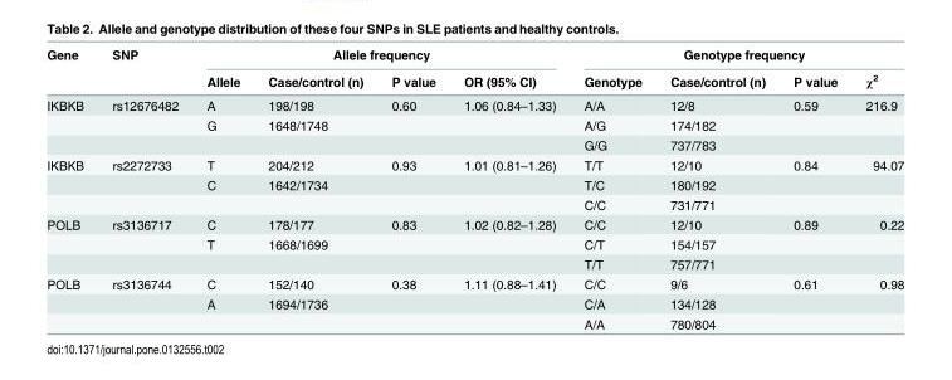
<table><thead><tr><td rowspan="2">Gene</td><td rowspan="2">SNP</td><td colspan="4">Allele frequency</td><td colspan="4">Genotype frequency</td></tr><tr><td>Allele</td><td>Case/control (n)</td><td>P value</td><td>OR (95% CI)</td><td>Genotype</td><td>Case/control (n)</td><td>P value</td><td>χ<sup>2</sup></td></tr></thead><tbody><tr><td rowspan="3">IKBKB</td><td>rs12676482</td><td>A</td><td>198/198</td><td>0.60</td><td>1.06 (0.84–1.33)</td><td>A/A</td><td>12/8</td><td>0.59</td><td>216.9</td></tr><tr><td></td><td>G</td><td>1648/1748</td><td></td><td></td><td>A/G</td><td>174/182</td><td></td><td></td></tr><tr><td></td><td></td><td></td><td></td><td></td><td>G/G</td><td>737/783</td><td></td><td></td></tr><tr><td rowspan="3">IKBKB</td><td>rs2272733</td><td>T</td><td>204/212</td><td>0.93</td><td>1.01 (0.81–1.26)</td><td>T/T</td><td>12/10</td><td>0.84</td><td>94.07</td></tr><tr><td></td><td>C</td><td>1642/1734</td><td></td><td></td><td>T/C</td><td>180/192</td><td></td><td></td></tr><tr><td></td><td></td><td></td><td></td><td></td><td>C/C</td><td>731/771</td><td></td><td></td></tr><tr><td rowspan="3">POLB</td><td>rs3136717</td><td>C</td><td>178/177</td><td>0.83</td><td>1.02 (0.82–1.28)</td><td>C/C</td><td>12/10</td><td>0.89</td><td>0.22</td></tr><tr><td></td><td>T</td><td>1668/1699</td><td></td><td></td><td>C/T</td><td>154/157</td><td></td><td></td></tr><tr><td></td><td></td><td></td><td></td><td></td><td>T/T</td><td>757/771</td><td></td><td></td></tr><tr><td rowspan="3">POLB</td><td>rs3136744</td><td>C</td><td>152/140</td><td>0.38</td><td>1.11 (0.88–1.41)</td><td>C/C</td><td>9/6</td><td>0.61</td><td>0.98</td></tr><tr><td></td><td>A</td><td>1694/1736</td><td></td><td></td><td>C/A</td><td>134/128</td><td></td><td></td></tr><tr><td></td><td></td><td></td><td></td><td></td><td>A/A</td><td>780/804</td><td></td><td></td></tr></tbody></table>